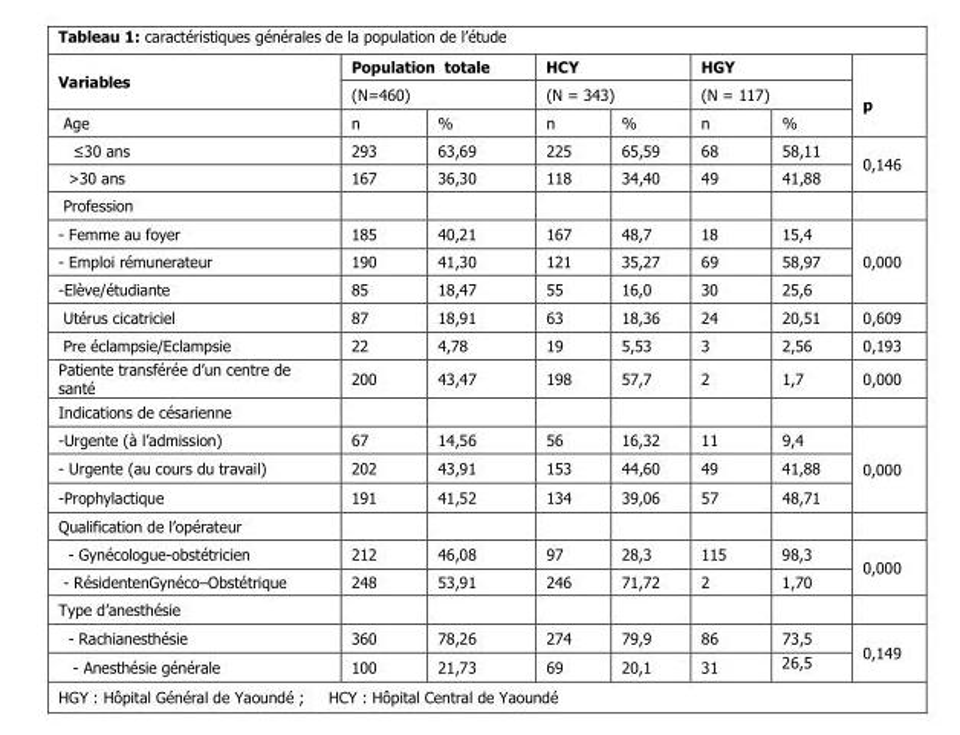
<table><thead><tr><td rowspan="3">Variables Age</td><td rowspan="2" colspan="2">Population totale (N=460)</td><td rowspan="2" colspan="2">HCY (N = 343)</td><td rowspan="2" colspan="2">HGY (N = 117)</td><td rowspan="3">p</td></tr><tr></tr><tr><td>n</td><td>%</td><td>n</td><td>%</td><td>n</td><td>%</td></tr></thead><tbody><tr><td>≤30 ans</td><td>293</td><td>63,69</td><td>225</td><td>65,59</td><td>68</td><td>58,11</td><td rowspan="2">0,146</td></tr><tr><td>&gt;30 ans</td><td>167</td><td>36,30</td><td>118</td><td>34,40</td><td>49</td><td>41,88</td></tr><tr><td colspan="8">Profession</td></tr><tr><td>- Femme au foyer</td><td>185</td><td>40,21</td><td>167</td><td>48,7</td><td>18</td><td>15,4</td><td rowspan="3">0,000</td></tr><tr><td>- Emploi rémunerateur</td><td>190</td><td>41,30</td><td>121</td><td>35,27</td><td>69</td><td>58,97</td></tr><tr><td>-Elève/étudiante</td><td>85</td><td>18,47</td><td>55</td><td>16,0</td><td>30</td><td>25,6</td></tr><tr><td>Utérus cicatriciel</td><td>87</td><td>18,91</td><td>63</td><td>18,36</td><td>24</td><td>20,51</td><td>0,609</td></tr><tr><td>Pre éclampsie/Eclampsie</td><td>22</td><td>4,78</td><td>19</td><td>5,53</td><td>3</td><td>2,56</td><td>0,193</td></tr><tr><td>Patiente transférée d’un centre de santé</td><td>200</td><td>43,47</td><td>198</td><td>57,7</td><td>2</td><td>1,7</td><td>0,000</td></tr><tr><td colspan="8">Indications de césarienne</td></tr><tr><td>-Urgente (à l’admission)</td><td>67</td><td>14,56</td><td>56</td><td>16,32</td><td>11</td><td>9,4</td><td rowspan="3">0,000</td></tr><tr><td>- Urgente (au cours du travail)</td><td>202</td><td>43,91</td><td>153</td><td>44,60</td><td>49</td><td>41,88</td></tr><tr><td>-Prophylactique</td><td>191</td><td>41,52</td><td>134</td><td>39,06</td><td>57</td><td>48,71</td></tr><tr><td colspan="8">Qualification de l’opérateur</td></tr><tr><td>- Gynécologue-obstétricien</td><td>212</td><td>46,08</td><td>97</td><td>28,3</td><td>115</td><td>98,3</td><td rowspan="2">0,000</td></tr><tr><td>- RésidentenGynéco–Obstétrique</td><td>248</td><td>53,91</td><td>246</td><td>71,72</td><td>2</td><td>1,70</td></tr><tr><td colspan="8">Type d’anesthésie</td></tr><tr><td>- Rachianesthésie</td><td>360</td><td>78,26</td><td>274</td><td>79,9</td><td>86</td><td>73,5</td><td rowspan="2">0,149</td></tr><tr><td>- Anesthésie générale</td><td>100</td><td>21,73</td><td>69</td><td>20,1</td><td>31</td><td>26,5</td></tr></tbody></table>